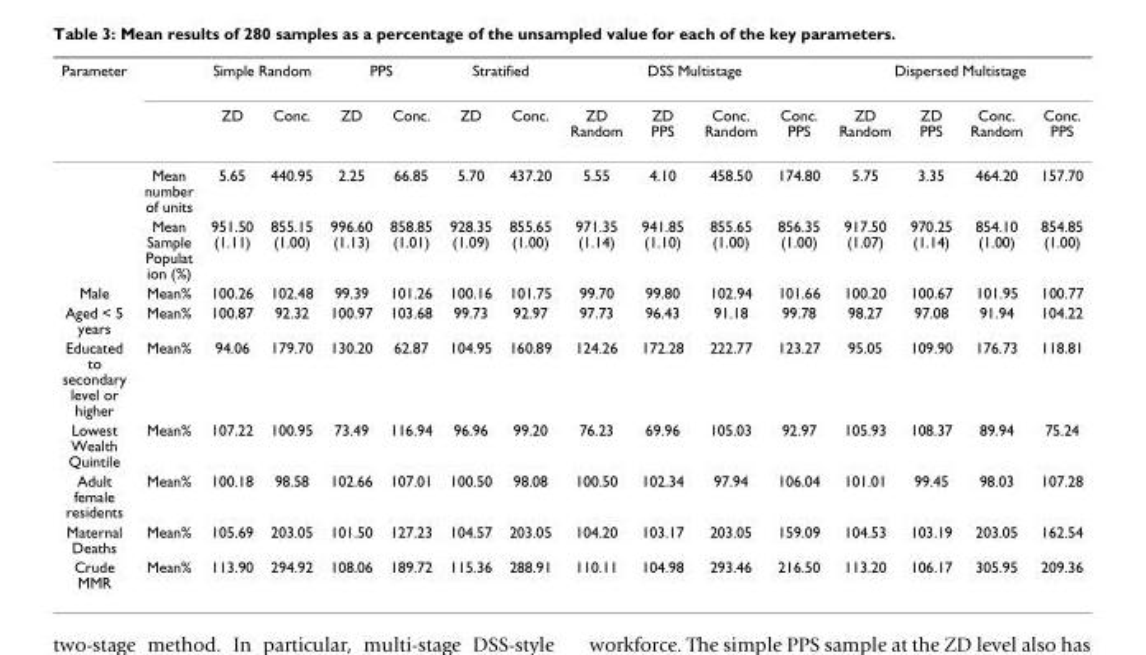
<table><thead><tr><td rowspan="2">Parameter</td><td rowspan="2"></td><td colspan="2">Simple Random</td><td colspan="2">PPS</td><td colspan="2">Stratified</td><td colspan="4">DSS Multistage</td><td colspan="4">Dispersed Multistage</td></tr><tr><td>ZD</td><td>Conc.</td><td>ZD</td><td>Conc.</td><td>ZD</td><td>Conc.</td><td>ZD Random</td><td>ZD PPS</td><td>Conc. Random</td><td>Conc. PPS</td><td>ZD Random</td><td>ZD PPS</td><td>Conc. Random</td><td>Conc. PPS</td></tr></thead><tbody><tr><td></td><td>Mean number of units</td><td>5.65</td><td>440.95</td><td>2.25</td><td>66.85</td><td>5.70</td><td>437.20</td><td>5.55</td><td>4.10</td><td>458.50</td><td>174.80</td><td>5.75</td><td>3.35</td><td>464.20</td><td>157.70</td></tr><tr><td></td><td>Mean Sample Populat ion (%)</td><td>951.50 (1.11)</td><td>855.15 (1.00)</td><td>996.60 (1.13)</td><td>858.85 (1.01)</td><td>928.35 (1.09)</td><td>855.65 (1.00)</td><td>971.35 (1.14)</td><td>941.85 (1.10)</td><td>855.65 (1.00)</td><td>856.35 (1.00)</td><td>917.50 (1.07)</td><td>970.25 (1.14)</td><td>854.10 (1.00)</td><td>854.85 (1.00)</td></tr><tr><td>Male</td><td>Mean%</td><td>100.26</td><td>102.48</td><td>99.39</td><td>101.26</td><td>100.16</td><td>101.75</td><td>99.70</td><td>99.80</td><td>102.94</td><td>101.66</td><td>100.20</td><td>100.67</td><td>101.95</td><td>100.77</td></tr><tr><td>Aged &lt; 5 years</td><td>Mean%</td><td>100.87</td><td>92.32</td><td>100.97</td><td>103.68</td><td>99.73</td><td>92.97</td><td>97.73</td><td>96.43</td><td>91.18</td><td>99.78</td><td>98.27</td><td>97.08</td><td>91.94</td><td>104.22</td></tr><tr><td>Educated to secondary level or higher</td><td>Mean%</td><td>94.06</td><td>179.70</td><td>130.20</td><td>62.87</td><td>104.95</td><td>160.89</td><td>124.26</td><td>172.28</td><td>222.77</td><td>123.27</td><td>95.05</td><td>109.90</td><td>176.73</td><td>118.81</td></tr><tr><td>Lowest Wealth Quintile</td><td>Mean%</td><td>107.22</td><td>100.95</td><td>73.49</td><td>116.94</td><td>96.96</td><td>99.20</td><td>76.23</td><td>69.96</td><td>105.03</td><td>92.97</td><td>105.93</td><td>108.37</td><td>89.94</td><td>75.24</td></tr><tr><td>Adult female residents</td><td>Mean%</td><td>100.18</td><td>98.58</td><td>102.66</td><td>107.01</td><td>100.50</td><td>98.08</td><td>100.50</td><td>102.34</td><td>97.94</td><td>106.04</td><td>101.01</td><td>99.45</td><td>98.03</td><td>107.28</td></tr><tr><td>Maternal Deaths</td><td>Mean%</td><td>105.69</td><td>203.05</td><td>101.50</td><td>127.23</td><td>104.57</td><td>203.05</td><td>104.20</td><td>103.17</td><td>203.05</td><td>159.09</td><td>104.53</td><td>103.19</td><td>203.05</td><td>162.54</td></tr><tr><td>Crude MMR</td><td>Mean%</td><td>113.90</td><td>294.92</td><td>108.06</td><td>189.72</td><td>115.36</td><td>288.91</td><td>110.11</td><td>104.98</td><td>293.46</td><td>216.50</td><td>113.20</td><td>106.17</td><td>305.95</td><td>209.36</td></tr></tbody></table>